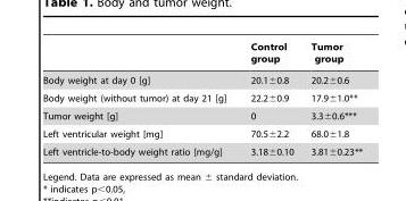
<table><thead><tr><td></td><td>Control group</td><td>Tumor group</td></tr></thead><tbody><tr><td>Body weight at day 0 [g]</td><td>20.1±0.8</td><td>20.2±0.6</td></tr><tr><td>Body weight (without tumor) at day 21 [g]</td><td>22.2±0.9</td><td>17.9±1.0**</td></tr><tr><td>Tumor weight [g]</td><td>0</td><td>3.3±0.6***</td></tr><tr><td>Left ventricular weight [mg]</td><td>70.5±2.2</td><td>68.0±1.8</td></tr><tr><td>Left ventricle-to-body weight ratio [mg/g]</td><td>3.18±0.10</td><td>3.81±0.23**</td></tr></tbody></table>